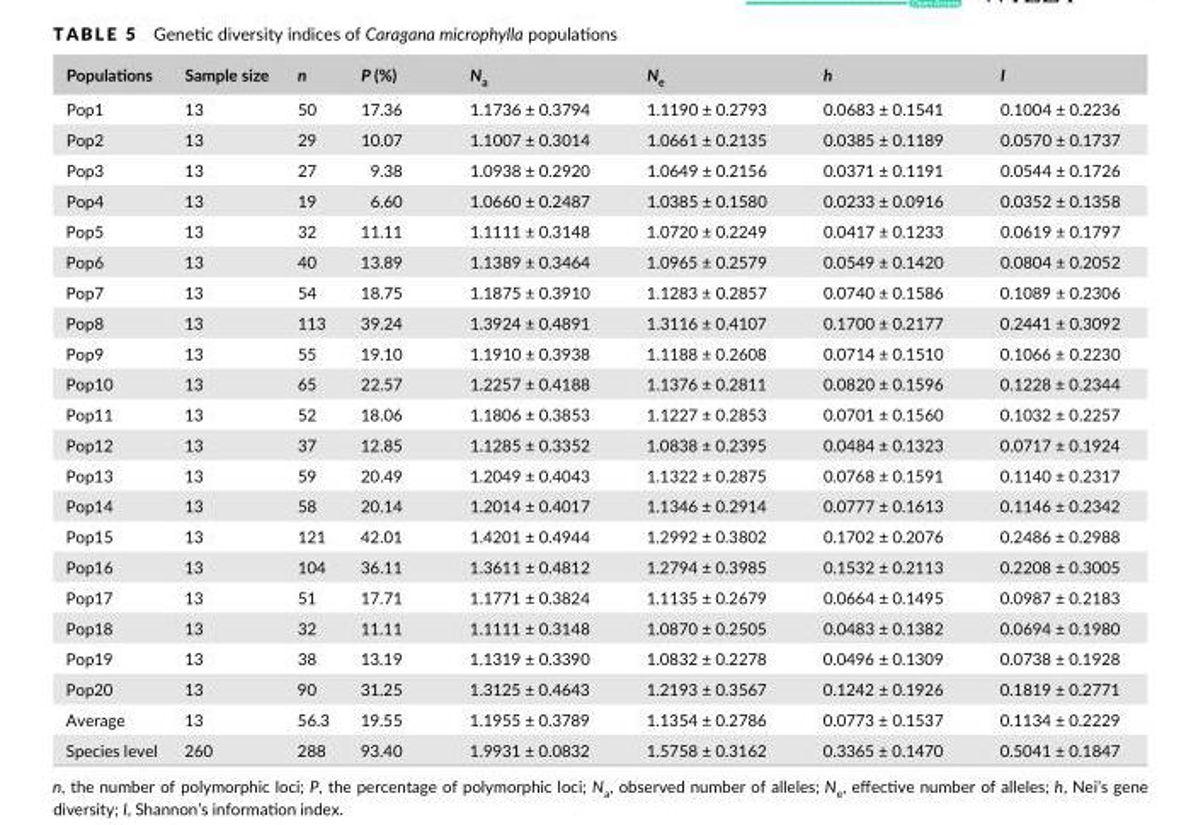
<table><thead><tr><td>Populations</td><td>Sample size</td><td>n</td><td>P (%)</td><td>N<sub>a</sub></td><td>N<sub>e</sub></td><td>h</td><td>I</td></tr></thead><tbody><tr><td>Pop1</td><td>13</td><td>50</td><td>17.36</td><td>1.1736 ± 0.3794</td><td>1.1190 ± 0.2793</td><td>0.0683 ± 0.1541</td><td>0.1004 ± 0.2236</td></tr><tr><td>Pop2</td><td>13</td><td>29</td><td>10.07</td><td>1.1007 ± 0.3014</td><td>1.0661 ± 0.2135</td><td>0.0385 ± 0.1189</td><td>0.0570 ± 0.1737</td></tr><tr><td>Pop3</td><td>13</td><td>27</td><td>9.38</td><td>1.0938 ± 0.2920</td><td>1.0649 ± 0.2156</td><td>0.0371 ± 0.1191</td><td>0.0544 ± 0.1726</td></tr><tr><td>Pop4</td><td>13</td><td>19</td><td>6.60</td><td>1.0660 ± 0.2487</td><td>1.0385 ± 0.1580</td><td>0.0233 ± 0.0916</td><td>0.0352 ± 0.1358</td></tr><tr><td>Pop5</td><td>13</td><td>32</td><td>11.11</td><td>1.1111 ± 0.3148</td><td>1.0720 ± 0.2249</td><td>0.0417 ± 0.1233</td><td>0.0619 ± 0.1797</td></tr><tr><td>Pop6</td><td>13</td><td>40</td><td>13.89</td><td>1.1389 ± 0.3464</td><td>1.0965 ± 0.2579</td><td>0.0549 ± 0.1420</td><td>0.0804 ± 0.2052</td></tr><tr><td>Pop7</td><td>13</td><td>54</td><td>18.75</td><td>1.1875 ± 0.3910</td><td>1.1283 ± 0.2857</td><td>0.0740 ± 0.1586</td><td>0.1089 ± 0.2306</td></tr><tr><td>Pop8</td><td>13</td><td>113</td><td>39.24</td><td>1.3924 ± 0.4891</td><td>1.3116 ± 0.4107</td><td>0.1700 ± 0.2177</td><td>0.2441 ± 0.3092</td></tr><tr><td>Pop9</td><td>13</td><td>55</td><td>19.10</td><td>1.1910 ± 0.3938</td><td>1.1188 ± 0.2608</td><td>0.0714 ± 0.1510</td><td>0.1066 ± 0.2230</td></tr><tr><td>Pop10</td><td>13</td><td>65</td><td>22.57</td><td>1.2257 ± 0.4188</td><td>1.1376 ± 0.2811</td><td>0.0820 ± 0.1596</td><td>0.1228 ± 0.2344</td></tr><tr><td>Pop11</td><td>13</td><td>52</td><td>18.06</td><td>1.1806 ± 0.3853</td><td>1.1227 ± 0.2853</td><td>0.0701 ± 0.1560</td><td>0.1032 ± 0.2257</td></tr><tr><td>Pop12</td><td>13</td><td>37</td><td>12.85</td><td>1.1285 ± 0.3352</td><td>1.0838 ± 0.2395</td><td>0.0484 ± 0.1323</td><td>0.0717 ± 0.1924</td></tr><tr><td>Pop13</td><td>13</td><td>59</td><td>20.49</td><td>1.2049 ± 0.4043</td><td>1.1322 ± 0.2875</td><td>0.0768 ± 0.1591</td><td>0.1140 ± 0.2317</td></tr><tr><td>Pop14</td><td>13</td><td>58</td><td>20.14</td><td>1.2014 ± 0.4017</td><td>1.1346 ± 0.2914</td><td>0.0777 ± 0.1613</td><td>0.1146 ± 0.2342</td></tr><tr><td>Pop15</td><td>13</td><td>121</td><td>42.01</td><td>1.4201 ± 0.4944</td><td>1.2992 ± 0.3802</td><td>0.1702 ± 0.2076</td><td>0.2486 ± 0.2988</td></tr><tr><td>Pop16</td><td>13</td><td>104</td><td>36.11</td><td>1.3611 ± 0.4812</td><td>1.2794 ± 0.3985</td><td>0.1532 ± 0.2113</td><td>0.2208 ± 0.3005</td></tr><tr><td>Pop17</td><td>13</td><td>51</td><td>17.71</td><td>1.1771 ± 0.3824</td><td>1.1135 ± 0.2679</td><td>0.0664 ± 0.1495</td><td>0.0987 ± 0.2183</td></tr><tr><td>Pop18</td><td>13</td><td>32</td><td>11.11</td><td>1.1111 ± 0.3148</td><td>1.0870 ± 0.2505</td><td>0.0483 ± 0.1382</td><td>0.0694 ± 0.1980</td></tr><tr><td>Pop19</td><td>13</td><td>38</td><td>13.19</td><td>1.1319 ± 0.3390</td><td>1.0832 ± 0.2278</td><td>0.0496 ± 0.1309</td><td>0.0738 ± 0.1928</td></tr><tr><td>Pop20</td><td>13</td><td>90</td><td>31.25</td><td>1.3125 ± 0.4643</td><td>1.2193 ± 0.3567</td><td>0.1242 ± 0.1926</td><td>0.1819 ± 0.2771</td></tr><tr><td>Average</td><td>13</td><td>56.3</td><td>19.55</td><td>1.1955 ± 0.3789</td><td>1.1354 ± 0.2786</td><td>0.0773 ± 0.1537</td><td>0.1134 ± 0.2229</td></tr><tr><td>Species level</td><td>260</td><td>288</td><td>93.40</td><td>1.9931 ± 0.0832</td><td>1.5758 ± 0.3162</td><td>0.3365 ± 0.1470</td><td>0.5041 ± 0.1847</td></tr></tbody></table>